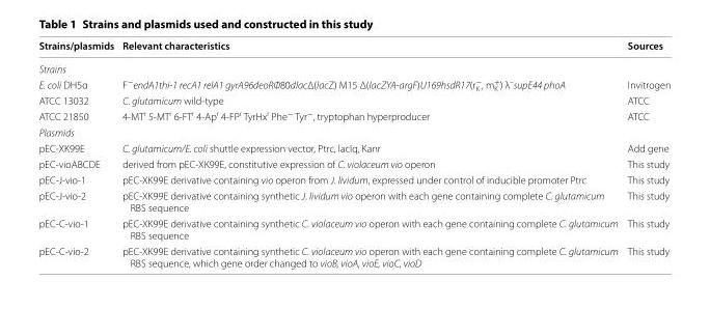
<table><thead><tr><td>Strains/plasmids</td><td>Relevant characteristics</td><td>Sources</td></tr></thead><tbody><tr><td colspan="3">Strains</td></tr><tr><td>E. coli DH5α</td><td>F<sup>−</sup>endA1thi-1 recA1 relA1 gyrA96deoRΦ80dlacΔ(lacZ) M15 Δ(lacZYA-argF)U169hsdR17(r<sub>K</sub> <sup>−</sup>, m<sub>K</sub> <sup>+</sup>) λ<sup>–</sup>supE44 phoA</td><td>Invitrogen</td></tr><tr><td>ATCC 13032</td><td>C. glutamicum wild-type</td><td>ATCC</td></tr><tr><td>ATCC 21850</td><td>4-MT<sup>r</sup> 5-MT<sup>r</sup> 6-FT<sup>r</sup> 4-Ap<sup>r</sup> 4-FP<sup>r</sup> TyrHx<sup>r</sup> Phe<sup>−</sup> Tyr<sup>−</sup>, tryptophan hyperproducer</td><td>ATCC</td></tr><tr><td colspan="3">Plasmids</td></tr><tr><td>pEC-XK99E</td><td>C. glutamicum/E. coli shuttle expression vector, Ptrc, lacIq, Kanr</td><td>Add gene</td></tr><tr><td>pEC-vioABCDE</td><td>derived from pEC-XK99E, constitutive expression of C. violaceum vio operon</td><td>This study</td></tr><tr><td>pEC-J-vio-1</td><td>pEC-XK99E derivative containing vio operon from J. lividum, expressed under control of inducible promoter Ptrc</td><td>This study</td></tr><tr><td>pEC-J-vio-2</td><td>pEC-XK99E derivative containing synthetic J. lividum vio operon with each gene containing complete C. glutamicum RBS sequence</td><td>This study</td></tr><tr><td>pEC-C-vio-1</td><td>pEC-XK99E derivative containing synthetic C. violaceum vio operon with each gene containing complete C. glutamicum RBS sequence</td><td>This study</td></tr><tr><td>pEC-C-vio-2</td><td>pEC-XK99E derivative containing synthetic C. violaceum vio operon with each gene containing complete C. glutamicum RBS sequence, which gene order changed to vioB, vioA, vioE, vioC, vioD</td><td>This study</td></tr></tbody></table>